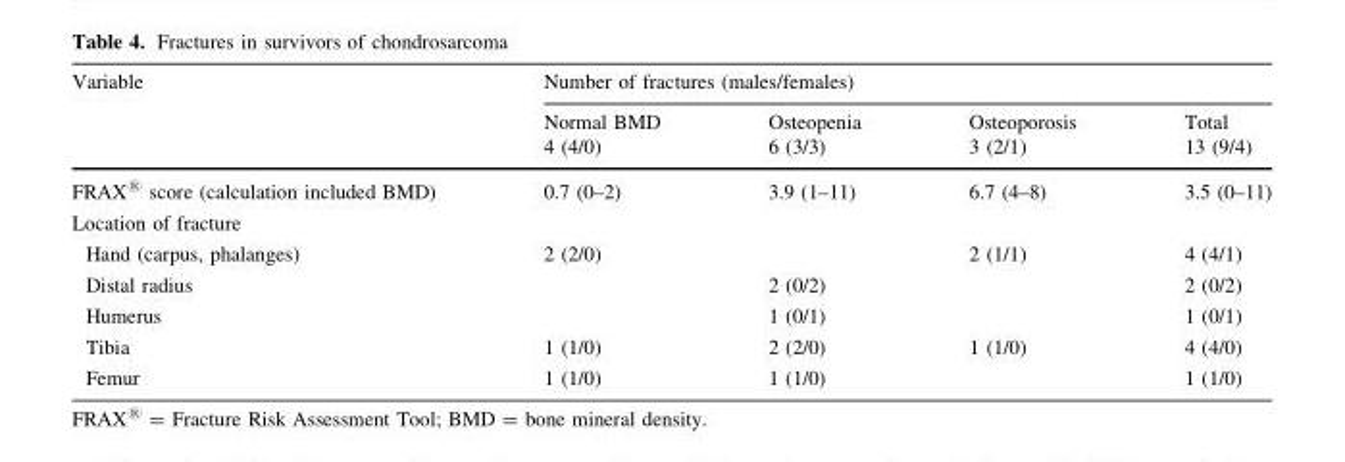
<table><thead><tr><td rowspan="3">Variable</td><td colspan="4">Number of fractures (males/females)</td></tr><tr><td rowspan="2">Normal BMD 4 (4/0)</td><td rowspan="2">Osteopenia 6 (3/3)</td><td rowspan="2">Osteoporosis 3 (2/1)</td><td rowspan="2">Total 13 (9/4)</td></tr><tr></tr></thead><tbody><tr><td>FRAX<sup>®</sup> score (calculation included BMD)</td><td>0.7 (0–2)</td><td>3.9 (1–11)</td><td>6.7 (4–8)</td><td>3.5 (0–11)</td></tr><tr><td colspan="5">Location of fracture</td></tr><tr><td>Hand (carpus, phalanges)</td><td>2 (2/0)</td><td></td><td>2 (1/1)</td><td>4 (4/1)</td></tr><tr><td>Distal radius</td><td></td><td>2 (0/2)</td><td></td><td>2 (0/2)</td></tr><tr><td>Humerus</td><td></td><td>1 (0/1)</td><td></td><td>1 (0/1)</td></tr><tr><td>Tibia</td><td>1 (1/0)</td><td>2 (2/0)</td><td>1 (1/0)</td><td>4 (4/0)</td></tr><tr><td>Femur</td><td>1 (1/0)</td><td>1 (1/0)</td><td></td><td>1 (1/0)</td></tr></tbody></table>